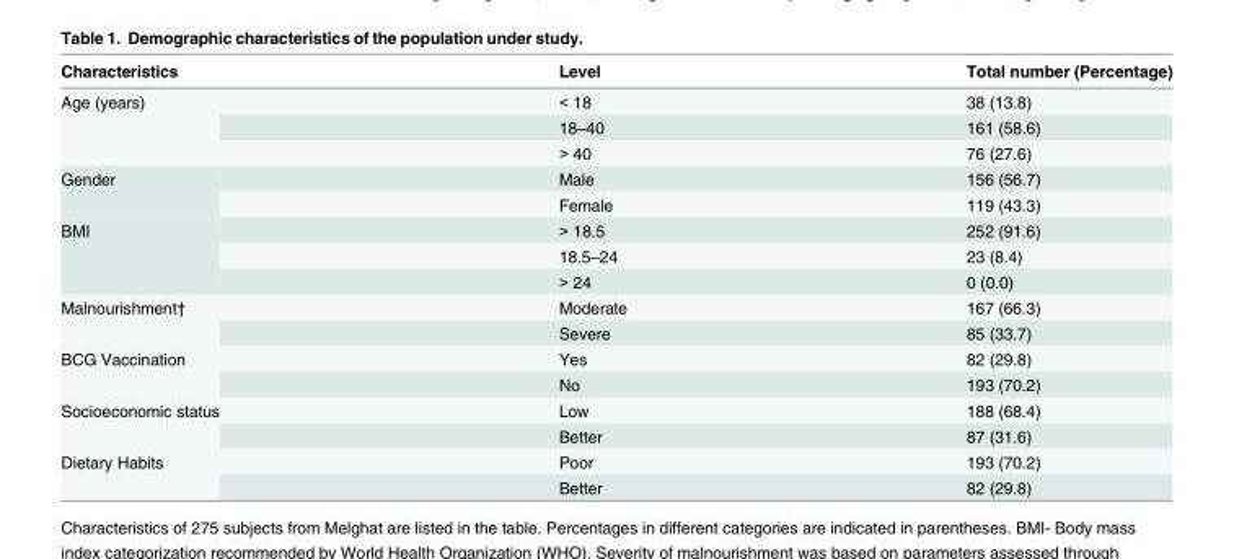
<table><thead><tr><td>Characteristics</td><td>Level</td><td>Total number (Percentage)</td></tr></thead><tbody><tr><td rowspan="3">Age (years)</td><td>&lt; 18</td><td>38 (13.8)</td></tr><tr><td>18–40</td><td>161 (58.6)</td></tr><tr><td>&gt; 40</td><td>76 (27.6)</td></tr><tr><td rowspan="2">Gender</td><td>Male</td><td>156 (56.7)</td></tr><tr><td>Female</td><td>119 (43.3)</td></tr><tr><td rowspan="3">BMI</td><td>&gt; 18.5</td><td>252 (91.6)</td></tr><tr><td>18.5–24</td><td>23 (8.4)</td></tr><tr><td>&gt; 24</td><td>0 (0.0)</td></tr><tr><td rowspan="2">Malnourishment†</td><td>Moderate</td><td>167 (66.3)</td></tr><tr><td>Severe</td><td>85 (33.7)</td></tr><tr><td rowspan="2">BCG Vaccination</td><td>Yes</td><td>82 (29.8)</td></tr><tr><td>No</td><td>193 (70.2)</td></tr><tr><td rowspan="2">Socioeconomic status</td><td>Low</td><td>188 (68.4)</td></tr><tr><td>Better</td><td>87 (31.6)</td></tr><tr><td rowspan="2">Dietary Habits</td><td>Poor</td><td>193 (70.2)</td></tr><tr><td>Better</td><td>82 (29.8)</td></tr></tbody></table>